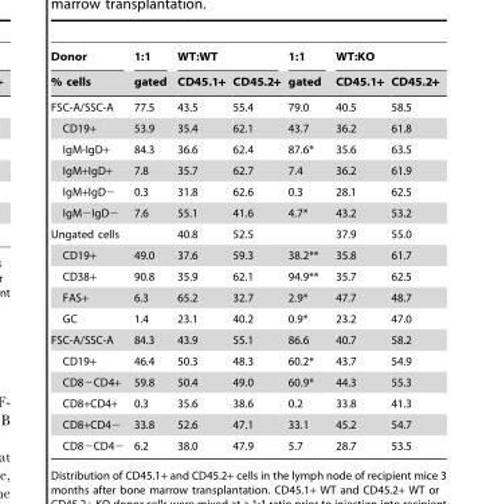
<table><thead><tr><td rowspan="2">Donor % cells</td><td rowspan="2">1:1 gated</td><td colspan="2">WT:WT</td><td rowspan="2">1:1 gated</td><td colspan="2">WT:KO</td></tr><tr><td>CD45.1+</td><td>CD45.2+</td><td>CD45.1+</td><td>CD45.2+</td></tr></thead><tbody><tr><td>FSC-A/SSC-A</td><td>77.5</td><td>43.5</td><td>55.4</td><td>79.0</td><td>40.5</td><td>58.5</td></tr><tr><td>CD19+</td><td>53.9</td><td>35.4</td><td>62.1</td><td>43.7</td><td>36.2</td><td>61.8</td></tr><tr><td>IgM-IgD+</td><td>84.3</td><td>36.6</td><td>62.4</td><td>87.6*</td><td>35.6</td><td>63.5</td></tr><tr><td>IgM+IgD+</td><td>7.8</td><td>35.7</td><td>62.7</td><td>7.4</td><td>36.2</td><td>61.9</td></tr><tr><td>IgM+IgD−</td><td>0.3</td><td>31.8</td><td>62.6</td><td>0.3</td><td>28.1</td><td>62.5</td></tr><tr><td>IgM−IgD−</td><td>7.6</td><td>55.1</td><td>41.6</td><td>4.7*</td><td>43.2</td><td>53.2</td></tr><tr><td>Ungated cells</td><td></td><td>40.8</td><td>52.5</td><td></td><td>37.9</td><td>55.0</td></tr><tr><td>CD19+</td><td>49.0</td><td>37.6</td><td>59.3</td><td>38.2**</td><td>35.8</td><td>61.7</td></tr><tr><td>CD38+</td><td>90.8</td><td>35.9</td><td>62.1</td><td>94.9**</td><td>35.7</td><td>62.5</td></tr><tr><td>FAS+</td><td>6.3</td><td>65.2</td><td>32.7</td><td>2.9*</td><td>47.7</td><td>48.7</td></tr><tr><td>GC</td><td>1.4</td><td>23.1</td><td>40.2</td><td>0.9*</td><td>23.2</td><td>47.0</td></tr><tr><td>FSC-A/SSC-A</td><td>84.3</td><td>43.9</td><td>55.1</td><td>86.6</td><td>40.7</td><td>58.2</td></tr><tr><td>CD19+</td><td>46.4</td><td>50.3</td><td>48.3</td><td>60.2*</td><td>43.7</td><td>54.9</td></tr><tr><td>CD8−CD4+</td><td>59.8</td><td>50.4</td><td>49.0</td><td>60.9*</td><td>44.3</td><td>55.3</td></tr><tr><td>CD8+CD4+</td><td>0.3</td><td>35.6</td><td>38.6</td><td>0.2</td><td>33.8</td><td>41.3</td></tr><tr><td>CD8+CD4−</td><td>33.8</td><td>52.6</td><td>47.1</td><td>33.1</td><td>45.2</td><td>54.7</td></tr><tr><td>CD8−CD4−</td><td>6.2</td><td>38.0</td><td>47.9</td><td>5.7</td><td>28.7</td><td>53.5</td></tr></tbody></table>